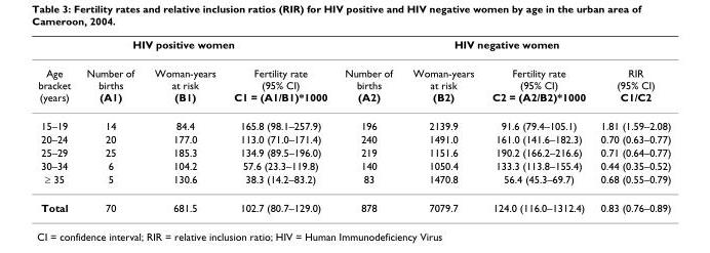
<table><thead><tr><td colspan="4">HIV positive women</td><td colspan="4">HIV negative women</td></tr><tr><td>Age bracket (years)</td><td>Number of births (A1)</td><td>Woman-years at risk (B1)</td><td>Fertility rate (95% CI) C1 = (A1/B1)*1000</td><td>Number of births (A2)</td><td>Woman-years at risk (B2)</td><td>Fertility rate (95% CI) C2 = (A2/B2)*1000</td><td>RIR (95% CI) C1/C2</td></tr></thead><tbody><tr><td>15–19</td><td>14</td><td>84.4</td><td>165.8 (98.1–257.9)</td><td>196</td><td>2139.9</td><td>91.6 (79.4–105.1)</td><td>1.81 (1.59–2.08)</td></tr><tr><td>20–24</td><td>20</td><td>177.0</td><td>113.0 (71.0–171.4)</td><td>240</td><td>1491.0</td><td>161.0 (141.6–182.3)</td><td>0.70 (0.63–0.77)</td></tr><tr><td>25–29</td><td>25</td><td>185.3</td><td>134.9 (89.5–196.0)</td><td>219</td><td>1151.6</td><td>190.2 (166.2–216.6)</td><td>0.71 (0.64–0.77)</td></tr><tr><td>30–34</td><td>6</td><td>104.2</td><td>57.6 (23.3–119.8)</td><td>140</td><td>1050.4</td><td>133.3 (113.8–155.4)</td><td>0.44 (0.35–0.52)</td></tr><tr><td>≥ 35</td><td>5</td><td>130.6</td><td>38.3 (14.2–83.2)</td><td>83</td><td>1470.8</td><td>56.4 (45.3–69.7)</td><td>0.68 (0.55–0.79)</td></tr><tr><td>Total</td><td>70</td><td>681.5</td><td>102.7 (80.7–129.0)</td><td>878</td><td>7079.7</td><td>124.0 (116.0–1312.4)</td><td>0.83 (0.76–0.89)</td></tr></tbody></table>